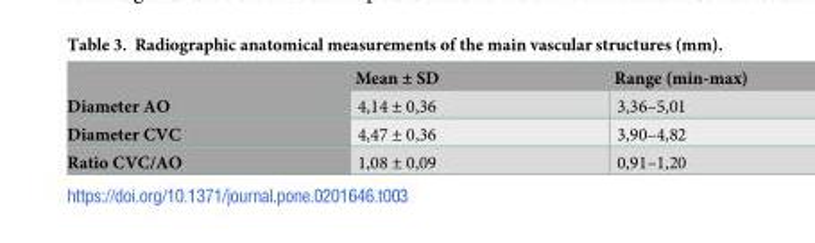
<table><thead><tr><td></td><td>Mean ± SD</td><td>Range (min-max)</td></tr></thead><tbody><tr><td>Diameter AO</td><td>4,14 ± 0,36</td><td>3,36–5,01</td></tr><tr><td>Diameter CVC</td><td>4,47 ± 0,36</td><td>3,90–4,82</td></tr><tr><td>Ratio CVC/AO</td><td>1,08 ± 0,09</td><td>0,91–1,20</td></tr></tbody></table>